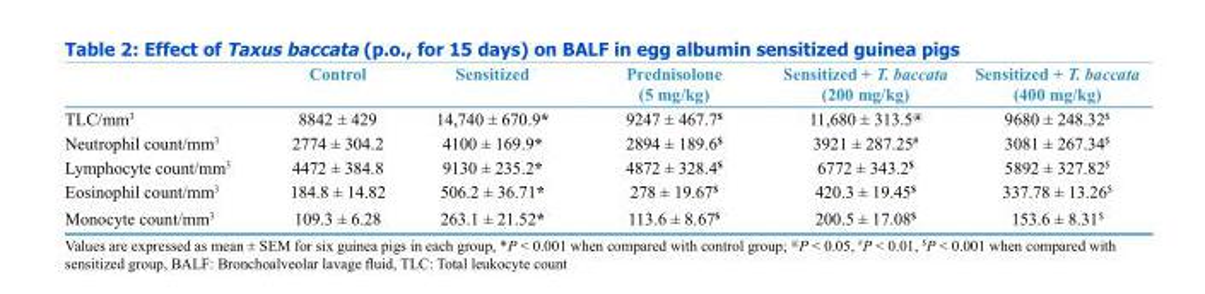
<table><thead><tr><td></td><td>Control</td><td>Sensitized</td><td>Prednisolone (5 mg/kg)</td><td>Sensitized + T. baccata (200 mg/kg)</td><td>Sensitized + T. baccata (400 mg/kg)</td></tr></thead><tbody><tr><td>TLC/mm<sup>3</sup></td><td>8842 ± 429</td><td>14,740 ± 670.9*</td><td>9247 ± 467.7$</td><td>11,680 ± 313.5@</td><td>9680 ± 248.32$</td></tr><tr><td>Neutrophil count/mm<sup>3</sup></td><td>2774 ± 304.2</td><td>4100 ± 169.9*</td><td>2894 ± 189.6$</td><td>3921 ± 287.25#</td><td>3081 ± 267.34$</td></tr><tr><td>Lymphocyte count/mm<sup>3</sup></td><td>4472 ± 384.8</td><td>9130 ± 235.2*</td><td>4872 ± 328.4$</td><td>6772 ± 343.2$</td><td>5892 ± 327.82$</td></tr><tr><td>Eosinophil count/mm<sup>3</sup></td><td>184.8 ± 14.82</td><td>506.2 ± 36.71*</td><td>278 ± 19.67$</td><td>420.3 ± 19.45$</td><td>337.78 ± 13.26$</td></tr><tr><td>Monocyte count/mm<sup>3</sup></td><td>109.3 ± 6.28</td><td>263.1 ± 21.52*</td><td>113.6 ± 8.67$</td><td>200.5 ± 17.08$</td><td>153.6 ± 8.31$</td></tr></tbody></table>